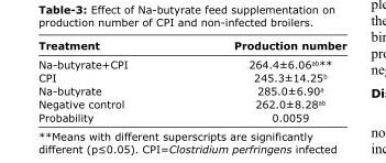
<table><thead><tr><td>Treatment</td><td>Production number</td></tr></thead><tbody><tr><td>Na-butyrate+CPI</td><td>264.4±6.06<sup>ab</sup>**</td></tr><tr><td>CPI</td><td>245.3±14.25<sup>b</sup></td></tr><tr><td>Na-butyrate</td><td>285.0±6.90<sup>a</sup></td></tr><tr><td>Negative control</td><td>262.0±8.28<sup>ab</sup></td></tr><tr><td>Probability</td><td>0.0059</td></tr></tbody></table>